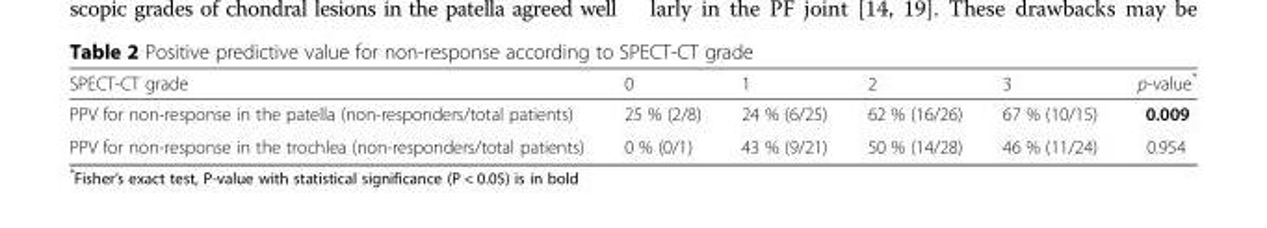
<table><thead><tr><td>SPECT-CT grade</td><td>0</td><td>1</td><td>2</td><td>3</td><td>p-value*</td></tr></thead><tbody><tr><td>PPV for non-response in the patella (non-responders/total patients)</td><td>25 % (2/8)</td><td>24 % (6/25)</td><td>62 % (16/26)</td><td>67 % (10/15)</td><td>0.009</td></tr><tr><td>PPV for non-response in the trochlea (non-responders/total patients)</td><td>0 % (0/1)</td><td>43 % (9/21)</td><td>50 % (14/28)</td><td>46 % (11/24)</td><td>0.954</td></tr></tbody></table>